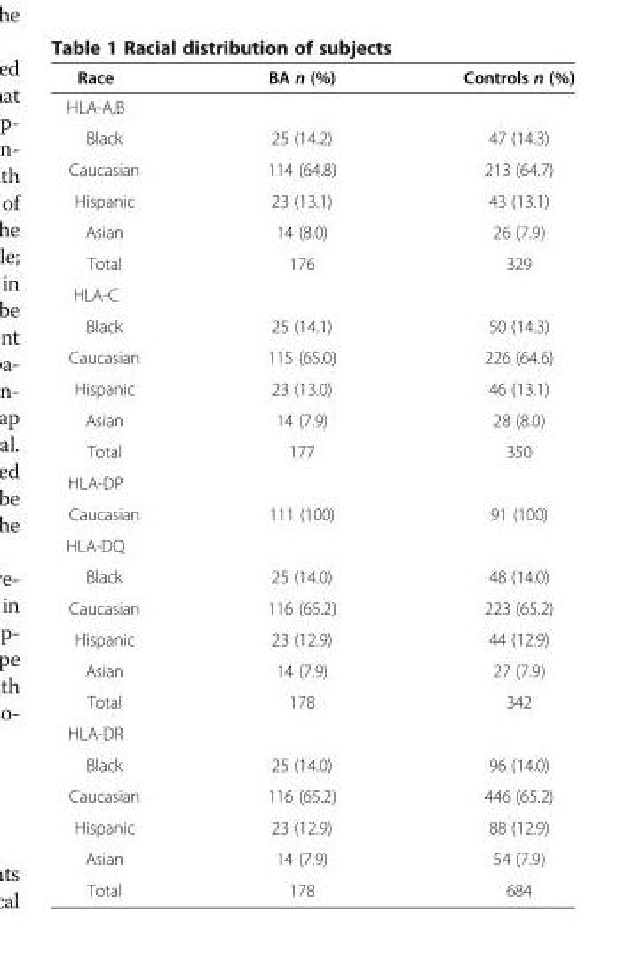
<table><thead><tr><td>Race</td><td>BA n (%)</td><td>Controls n (%)</td></tr></thead><tbody><tr><td colspan="3">HLA-A,B</td></tr><tr><td>Black</td><td>25 (14.2)</td><td>47 (14.3)</td></tr><tr><td>Caucasian</td><td>114 (64.8)</td><td>213 (64.7)</td></tr><tr><td>Hispanic</td><td>23 (13.1)</td><td>43 (13.1)</td></tr><tr><td>Asian</td><td>14 (8.0)</td><td>26 (7.9)</td></tr><tr><td>Total</td><td>176</td><td>329</td></tr><tr><td colspan="3">HLA-C</td></tr><tr><td>Black</td><td>25 (14.1)</td><td>50 (14.3)</td></tr><tr><td>Caucasian</td><td>115 (65.0)</td><td>226 (64.6)</td></tr><tr><td>Hispanic</td><td>23 (13.0)</td><td>46 (13.1)</td></tr><tr><td>Asian</td><td>14 (7.9)</td><td>28 (8.0)</td></tr><tr><td>Total</td><td>177</td><td>350</td></tr><tr><td colspan="3">HLA-DP</td></tr><tr><td>Caucasian</td><td>111 (100)</td><td>91 (100)</td></tr><tr><td colspan="3">HLA-DQ</td></tr><tr><td>Black</td><td>25 (14.0)</td><td>48 (14.0)</td></tr><tr><td>Caucasian</td><td>116 (65.2)</td><td>223 (65.2)</td></tr><tr><td>Hispanic</td><td>23 (12.9)</td><td>44 (12.9)</td></tr><tr><td>Asian</td><td>14 (7.9)</td><td>27 (7.9)</td></tr><tr><td>Total</td><td>178</td><td>342</td></tr><tr><td colspan="3">HLA-DR</td></tr><tr><td>Black</td><td>25 (14.0)</td><td>96 (14.0)</td></tr><tr><td>Caucasian</td><td>116 (65.2)</td><td>446 (65.2)</td></tr><tr><td>Hispanic</td><td>23 (12.9)</td><td>88 (12.9)</td></tr><tr><td>Asian</td><td>14 (7.9)</td><td>54 (7.9)</td></tr><tr><td>Total</td><td>178</td><td>684</td></tr></tbody></table>